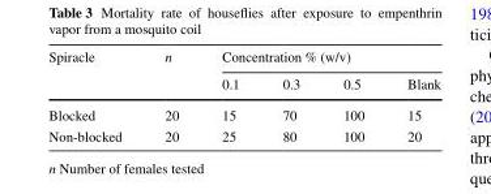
<table><thead><tr><td rowspan="2">Spiracle</td><td rowspan="2">n</td><td colspan="4">Concentration % (w/v)</td></tr><tr><td>0.1</td><td>0.3</td><td>0.5</td><td>Blank</td></tr></thead><tbody><tr><td>Blocked</td><td>20</td><td>15</td><td>70</td><td>100</td><td>15</td></tr><tr><td>Non-blocked</td><td>20</td><td>25</td><td>80</td><td>100</td><td>20</td></tr></tbody></table>